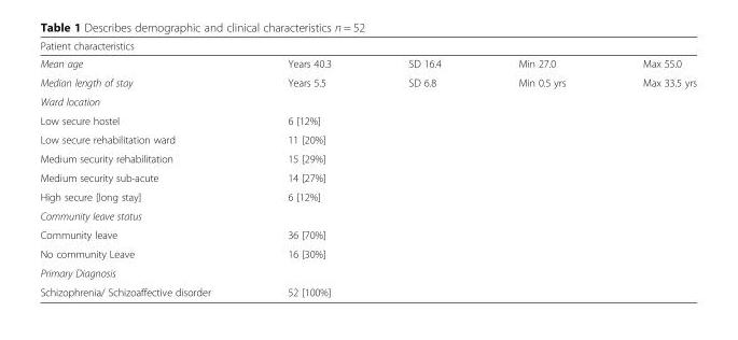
<table><thead><tr><td colspan="5">Patient characteristics</td></tr><tr><td>Mean age</td><td>Years 40.3</td><td>SD 16.4</td><td>Min 27.0</td><td>Max 55.0</td></tr></thead><tbody><tr><td>Median length of stay</td><td>Years 5.5</td><td>SD 6.8</td><td>Min 0.5 yrs</td><td>Max 33.5 yrs</td></tr><tr><td colspan="5">Ward location</td></tr><tr><td>Low secure hostel</td><td colspan="4">6 [12%]</td></tr><tr><td>Low secure rehabilitation ward</td><td colspan="4">11 [20%]</td></tr><tr><td>Medium security rehabilitation</td><td colspan="4">15 [29%]</td></tr><tr><td>Medium security sub-acute</td><td colspan="4">14 [27%]</td></tr><tr><td>High secure [long stay]</td><td colspan="4">6 [12%]</td></tr><tr><td colspan="5">Community leave status</td></tr><tr><td>Community leave</td><td colspan="4">36 [70%]</td></tr><tr><td>No community Leave</td><td colspan="4">16 [30%]</td></tr><tr><td colspan="5">Primary Diagnosis</td></tr><tr><td>Schizophrenia/ Schizoaffective disorder</td><td colspan="4">52 [100%]</td></tr></tbody></table>